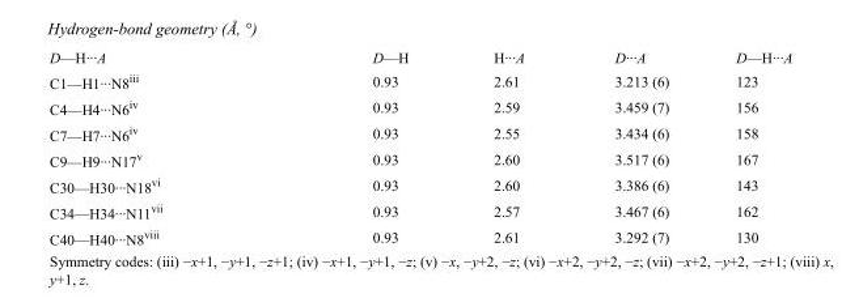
<table><tbody><tr><td>D—H···A</td><td>D—H</td><td>H···A</td><td>D···A</td><td>D—H···A</td></tr><tr><td>C1—H1···N8<sup>iii</sup></td><td>0.93</td><td>2.61</td><td>3.213 (6)</td><td>123</td></tr><tr><td>C4—H4···N6<sup>iv</sup></td><td>0.93</td><td>2.59</td><td>3.459 (7)</td><td>156</td></tr><tr><td>C7—H7···N6<sup>iv</sup></td><td>0.93</td><td>2.55</td><td>3.434 (6)</td><td>158</td></tr><tr><td>C9—H9···N17<sup>v</sup></td><td>0.93</td><td>2.60</td><td>3.517 (6)</td><td>167</td></tr><tr><td>C30—H30···N18<sup>vi</sup></td><td>0.93</td><td>2.60</td><td>3.386 (6)</td><td>143</td></tr><tr><td>C34—H34···N11<sup>vii</sup></td><td>0.93</td><td>2.57</td><td>3.467 (6)</td><td>162</td></tr><tr><td>C40—H40···N8<sup>viii</sup></td><td>0.93</td><td>2.61</td><td>3.292 (7)</td><td>130</td></tr></tbody></table>